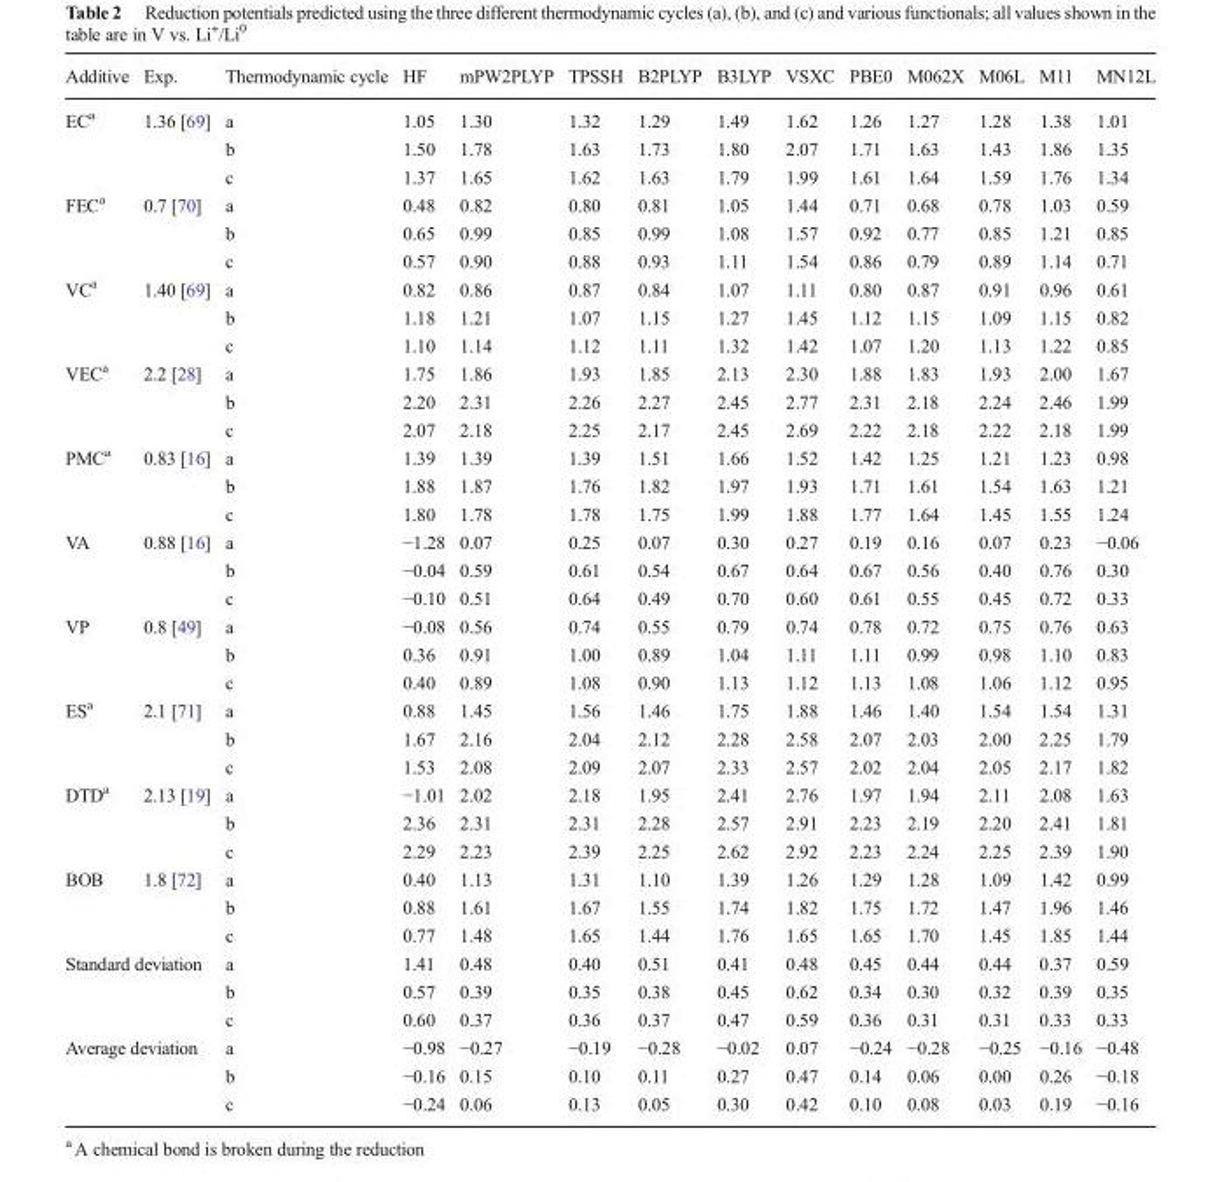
<table><thead><tr><td>Additive</td><td>Exp.</td><td>Thermodynamic cycle</td><td>HF</td><td>mPW2PLYP</td><td>TPSSH</td><td>B2PLYP</td><td>B3LYP</td><td>VSXC</td><td>PBE0</td><td>M062X</td><td>M06L</td><td>M11</td><td>MN12L</td></tr></thead><tbody><tr><td rowspan="3">EC<sup>a</sup></td><td rowspan="3">1.36 [69]</td><td>a</td><td>1.05</td><td>1.30</td><td>1.32</td><td>1.29</td><td>1.49</td><td>1.62</td><td>1.26</td><td>1.27</td><td>1.28</td><td>1.38</td><td>1.01</td></tr><tr><td>b</td><td>1.50</td><td>1.78</td><td>1.63</td><td>1.73</td><td>1.80</td><td>2.07</td><td>1.71</td><td>1.63</td><td>1.43</td><td>1.86</td><td>1.35</td></tr><tr><td>c</td><td>1.37</td><td>1.65</td><td>1.62</td><td>1.63</td><td>1.79</td><td>1.99</td><td>1.61</td><td>1.64</td><td>1.59</td><td>1.76</td><td>1.34</td></tr><tr><td rowspan="3">FEC<sup>a</sup></td><td rowspan="3">0.7 [70]</td><td>a</td><td>0.48</td><td>0.82</td><td>0.80</td><td>0.81</td><td>1.05</td><td>1.44</td><td>0.71</td><td>0.68</td><td>0.78</td><td>1.03</td><td>0.59</td></tr><tr><td>b</td><td>0.65</td><td>0.99</td><td>0.85</td><td>0.99</td><td>1.08</td><td>1.57</td><td>0.92</td><td>0.77</td><td>0.85</td><td>1.21</td><td>0.85</td></tr><tr><td>c</td><td>0.57</td><td>0.90</td><td>0.88</td><td>0.93</td><td>1.11</td><td>1.54</td><td>0.86</td><td>0.79</td><td>0.89</td><td>1.14</td><td>0.71</td></tr><tr><td rowspan="3">VC<sup>a</sup></td><td rowspan="3">1.40 [69]</td><td>a</td><td>0.82</td><td>0.86</td><td>0.87</td><td>0.84</td><td>1.07</td><td>1.11</td><td>0.80</td><td>0.87</td><td>0.91</td><td>0.96</td><td>0.61</td></tr><tr><td>b</td><td>1.18</td><td>1.21</td><td>1.07</td><td>1.15</td><td>1.27</td><td>1.45</td><td>1.12</td><td>1.15</td><td>1.09</td><td>1.15</td><td>0.82</td></tr><tr><td>c</td><td>1.10</td><td>1.14</td><td>1.12</td><td>1.11</td><td>1.32</td><td>1.42</td><td>1.07</td><td>1.20</td><td>1.13</td><td>1.22</td><td>0.85</td></tr><tr><td rowspan="3">VEC<sup>a</sup></td><td rowspan="3">2.2 [28]</td><td>a</td><td>1.75</td><td>1.86</td><td>1.93</td><td>1.85</td><td>2.13</td><td>2.30</td><td>1.88</td><td>1.83</td><td>1.93</td><td>2.00</td><td>1.67</td></tr><tr><td>b</td><td>2.20</td><td>2.31</td><td>2.26</td><td>2.27</td><td>2.45</td><td>2.77</td><td>2.31</td><td>2.18</td><td>2.24</td><td>2.46</td><td>1.99</td></tr><tr><td>c</td><td>2.07</td><td>2.18</td><td>2.25</td><td>2.17</td><td>2.45</td><td>2.69</td><td>2.22</td><td>2.18</td><td>2.22</td><td>2.18</td><td>1.99</td></tr><tr><td rowspan="3">PMC<sup>a</sup></td><td rowspan="3">0.83 [16]</td><td>a</td><td>1.39</td><td>1.39</td><td>1.39</td><td>1.51</td><td>1.66</td><td>1.52</td><td>1.42</td><td>1.25</td><td>1.21</td><td>1.23</td><td>0.98</td></tr><tr><td>b</td><td>1.88</td><td>1.87</td><td>1.76</td><td>1.82</td><td>1.97</td><td>1.93</td><td>1.71</td><td>1.61</td><td>1.54</td><td>1.63</td><td>1.21</td></tr><tr><td>c</td><td>1.80</td><td>1.78</td><td>1.78</td><td>1.75</td><td>1.99</td><td>1.88</td><td>1.77</td><td>1.64</td><td>1.45</td><td>1.55</td><td>1.24</td></tr><tr><td rowspan="3">VA</td><td rowspan="3">0.88 [16]</td><td>a</td><td>−1.28</td><td>0.07</td><td>0.25</td><td>0.07</td><td>0.30</td><td>0.27</td><td>0.19</td><td>0.16</td><td>0.07</td><td>0.23</td><td>−0.06</td></tr><tr><td>b</td><td>−0.04</td><td>0.59</td><td>0.61</td><td>0.54</td><td>0.67</td><td>0.64</td><td>0.67</td><td>0.56</td><td>0.40</td><td>0.76</td><td>0.30</td></tr><tr><td>c</td><td>−0.10</td><td>0.51</td><td>0.64</td><td>0.49</td><td>0.70</td><td>0.60</td><td>0.61</td><td>0.55</td><td>0.45</td><td>0.72</td><td>0.33</td></tr><tr><td rowspan="3">VP</td><td rowspan="3">0.8 [49]</td><td>a</td><td>−0.08</td><td>0.56</td><td>0.74</td><td>0.55</td><td>0.79</td><td>0.74</td><td>0.78</td><td>0.72</td><td>0.75</td><td>0.76</td><td>0.63</td></tr><tr><td>b</td><td>0.36</td><td>0.91</td><td>1.00</td><td>0.89</td><td>1.04</td><td>1.11</td><td>1.11</td><td>0.99</td><td>0.98</td><td>1.10</td><td>0.83</td></tr><tr><td>c</td><td>0.40</td><td>0.89</td><td>1.08</td><td>0.90</td><td>1.13</td><td>1.12</td><td>1.13</td><td>1.08</td><td>1.06</td><td>1.12</td><td>0.95</td></tr><tr><td rowspan="3">ES<sup>a</sup></td><td rowspan="3">2.1 [71]</td><td>a</td><td>0.88</td><td>1.45</td><td>1.56</td><td>1.46</td><td>1.75</td><td>1.88</td><td>1.46</td><td>1.40</td><td>1.54</td><td>1.54</td><td>1.31</td></tr><tr><td>b</td><td>1.67</td><td>2.16</td><td>2.04</td><td>2.12</td><td>2.28</td><td>2.58</td><td>2.07</td><td>2.03</td><td>2.00</td><td>2.25</td><td>1.79</td></tr><tr><td>c</td><td>1.53</td><td>2.08</td><td>2.09</td><td>2.07</td><td>2.33</td><td>2.57</td><td>2.02</td><td>2.04</td><td>2.05</td><td>2.17</td><td>1.82</td></tr><tr><td rowspan="3">DTD<sup>a</sup></td><td rowspan="3">2.13 [19]</td><td>a</td><td>−1.01</td><td>2.02</td><td>2.18</td><td>1.95</td><td>2.41</td><td>2.76</td><td>1.97</td><td>1.94</td><td>2.11</td><td>2.08</td><td>1.63</td></tr><tr><td>b</td><td>2.36</td><td>2.31</td><td>2.31</td><td>2.28</td><td>2.57</td><td>2.91</td><td>2.23</td><td>2.19</td><td>2.20</td><td>2.41</td><td>1.81</td></tr><tr><td>c</td><td>2.29</td><td>2.23</td><td>2.39</td><td>2.25</td><td>2.62</td><td>2.92</td><td>2.23</td><td>2.24</td><td>2.25</td><td>2.39</td><td>1.90</td></tr><tr><td rowspan="3">BOB</td><td rowspan="3">1.8 [72]</td><td>a</td><td>0.40</td><td>1.13</td><td>1.31</td><td>1.10</td><td>1.39</td><td>1.26</td><td>1.29</td><td>1.28</td><td>1.09</td><td>1.42</td><td>0.99</td></tr><tr><td>b</td><td>0.88</td><td>1.61</td><td>1.67</td><td>1.55</td><td>1.74</td><td>1.82</td><td>1.75</td><td>1.72</td><td>1.47</td><td>1.96</td><td>1.46</td></tr><tr><td>c</td><td>0.77</td><td>1.48</td><td>1.65</td><td>1.44</td><td>1.76</td><td>1.65</td><td>1.65</td><td>1.70</td><td>1.45</td><td>1.85</td><td>1.44</td></tr><tr><td rowspan="3" colspan="2">Standard deviation</td><td>a</td><td>1.41</td><td>0.48</td><td>0.40</td><td>0.51</td><td>0.41</td><td>0.48</td><td>0.45</td><td>0.44</td><td>0.44</td><td>0.37</td><td>0.59</td></tr><tr><td>b</td><td>0.57</td><td>0.39</td><td>0.35</td><td>0.38</td><td>0.45</td><td>0.62</td><td>0.34</td><td>0.30</td><td>0.32</td><td>0.39</td><td>0.35</td></tr><tr><td>c</td><td>0.60</td><td>0.37</td><td>0.36</td><td>0.37</td><td>0.47</td><td>0.59</td><td>0.36</td><td>0.31</td><td>0.31</td><td>0.33</td><td>0.33</td></tr><tr><td rowspan="3" colspan="2">Average deviation</td><td>a</td><td>−0.98</td><td>−0.27</td><td>−0.19</td><td>−0.28</td><td>−0.02</td><td>0.07</td><td>−0.24</td><td>−0.28</td><td>−0.25</td><td>−0.16</td><td>−0.48</td></tr><tr><td>b</td><td>−0.16</td><td>0.15</td><td>0.10</td><td>0.11</td><td>0.27</td><td>0.47</td><td>0.14</td><td>0.06</td><td>0.00</td><td>0.26</td><td>−0.18</td></tr><tr><td>c</td><td>−0.24</td><td>0.06</td><td>0.13</td><td>0.05</td><td>0.30</td><td>0.42</td><td>0.10</td><td>0.08</td><td>0.03</td><td>0.19</td><td>−0.16</td></tr></tbody></table>